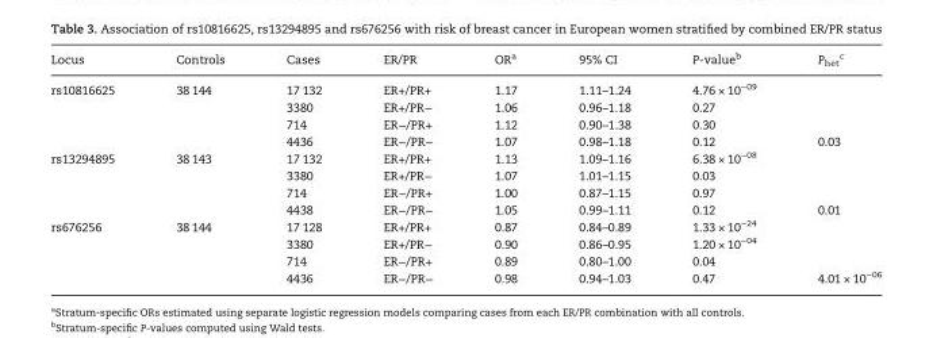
<table><thead><tr><td>Locus</td><td>Controls</td><td>Cases</td><td>ER/PR</td><td>OR<sup>a</sup></td><td>95% CI</td><td>P-value<sup>b</sup></td><td>P<sub>het</sub> <sup>c</sup></td></tr></thead><tbody><tr><td rowspan="4">rs10816625</td><td>38 144</td><td>17 132</td><td>ER+/PR+</td><td>1.17</td><td>1.11–1.24</td><td>4.76 × 10<sup>−09</sup></td><td></td></tr><tr><td></td><td>3380</td><td>ER+/PR−</td><td>1.06</td><td>0.96–1.18</td><td>0.27</td><td></td></tr><tr><td></td><td>714</td><td>ER−/PR+</td><td>1.12</td><td>0.90–1.38</td><td>0.30</td><td></td></tr><tr><td></td><td>4436</td><td>ER−/PR−</td><td>1.07</td><td>0.98–1.18</td><td>0.12</td><td>0.03</td></tr><tr><td rowspan="4">rs13294895</td><td>38 143</td><td>17 132</td><td>ER+/PR+</td><td>1.13</td><td>1.09–1.16</td><td>6.38 × 10<sup>−08</sup></td><td></td></tr><tr><td></td><td>3380</td><td>ER+/PR−</td><td>1.07</td><td>1.01–1.15</td><td>0.03</td><td></td></tr><tr><td></td><td>714</td><td>ER−/PR+</td><td>1.00</td><td>0.87–1.15</td><td>0.97</td><td></td></tr><tr><td></td><td>4438</td><td>ER−/PR−</td><td>1.05</td><td>0.99–1.11</td><td>0.12</td><td>0.01</td></tr><tr><td rowspan="4">rs676256</td><td>38 144</td><td>17 128</td><td>ER+/PR+</td><td>0.87</td><td>0.84–0.89</td><td>1.33 × 10<sup>−24</sup></td><td></td></tr><tr><td></td><td>3380</td><td>ER+/PR−</td><td>0.90</td><td>0.86–0.95</td><td>1.20 × 10<sup>−04</sup></td><td></td></tr><tr><td></td><td>714</td><td>ER−/PR+</td><td>0.89</td><td>0.80–1.00</td><td>0.04</td><td></td></tr><tr><td></td><td>4436</td><td>ER−/PR−</td><td>0.98</td><td>0.94–1.03</td><td>0.47</td><td>4.01 × 10<sup>−06</sup></td></tr></tbody></table>